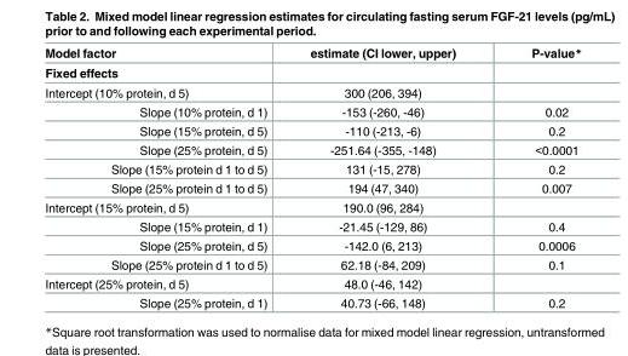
<table><thead><tr><td rowspan="2">Model factor Fixed effects</td><td rowspan="2">estimate (CI lower, upper)</td><td rowspan="2">P-value*</td></tr><tr></tr></thead><tbody><tr><td>Intercept (10% protein, d 5)</td><td>300 (206, 394)</td><td></td></tr><tr><td>Slope (10% protein, d 1)</td><td>-153 (-260, -46)</td><td>0.02</td></tr><tr><td>Slope (15% protein, d 5)</td><td>-110 (-213, -6)</td><td>0.2</td></tr><tr><td>Slope (25% protein, d 5)</td><td>-251.64 (-355, -148)</td><td>&lt;0.0001</td></tr><tr><td>Slope (15% protein d 1 to d 5)</td><td>131 (-15, 278)</td><td>0.2</td></tr><tr><td>Slope (25% protein d 1 to d 5)</td><td>194 (47, 340)</td><td>0.007</td></tr><tr><td>Intercept (15% protein, d 5)</td><td>190.0 (96, 284)</td><td></td></tr><tr><td>Slope (15% protein, d 1)</td><td>-21.45 (-129, 86)</td><td>0.4</td></tr><tr><td>Slope (25% protein, d 5)</td><td>-142.0 (6, 213)</td><td>0.0006</td></tr><tr><td>Slope (25% protein d 1 to d 5)</td><td>62.18 (-84, 209)</td><td>0.1</td></tr><tr><td>Intercept (25% protein, d 5)</td><td>48.0 (-46, 142)</td><td></td></tr><tr><td>Slope (25% protein, d 1)</td><td>40.73 (-66, 148)</td><td>0.2</td></tr></tbody></table>